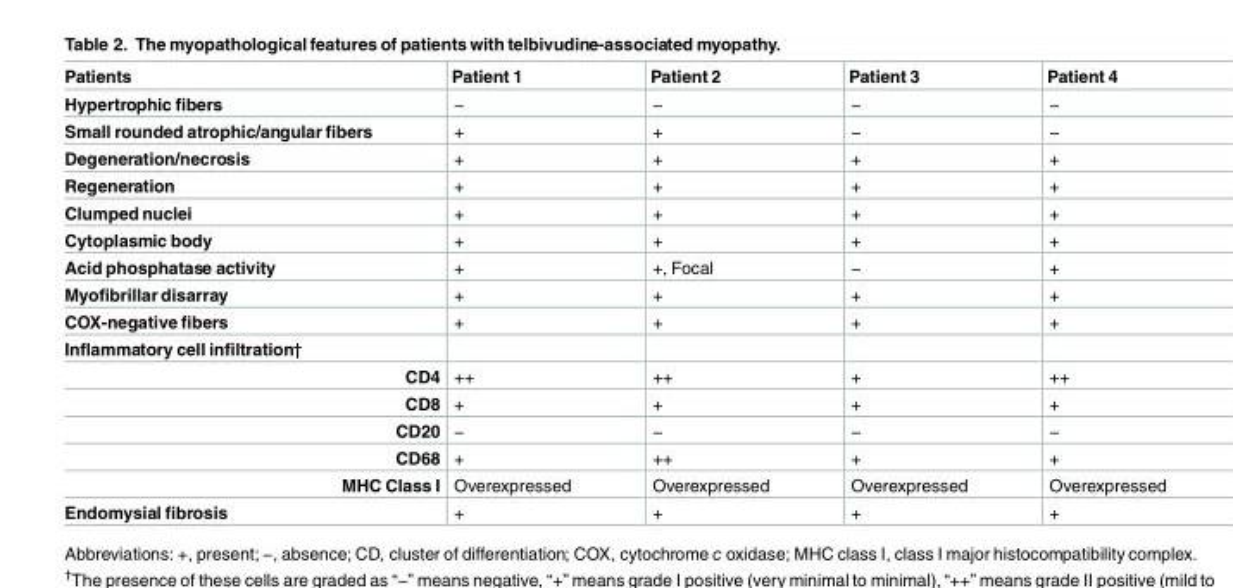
<table><thead><tr><td>Patients</td><td>Patient 1</td><td>Patient 2</td><td>Patient 3</td><td>Patient 4</td></tr></thead><tbody><tr><td>Hypertrophic fibers</td><td>−</td><td>−</td><td>−</td><td>−</td></tr><tr><td>Small rounded atrophic/angular fibers</td><td>+</td><td>+</td><td>−</td><td>−</td></tr><tr><td>Degeneration/necrosis</td><td>+</td><td>+</td><td>+</td><td>+</td></tr><tr><td>Regeneration</td><td>+</td><td>+</td><td>+</td><td>+</td></tr><tr><td>Clumped nuclei</td><td>+</td><td>+</td><td>+</td><td>+</td></tr><tr><td>Cytoplasmic body</td><td>+</td><td>+</td><td>+</td><td>+</td></tr><tr><td>Acid phosphatase activity</td><td>+</td><td>+, Focal</td><td>−</td><td>+</td></tr><tr><td>Myofibrillar disarray</td><td>+</td><td>+</td><td>+</td><td>+</td></tr><tr><td>COX-negative fibers</td><td>+</td><td>+</td><td>+</td><td>+</td></tr><tr><td colspan="5">Inflammatory cell infiltration†</td></tr><tr><td>CD4</td><td>++</td><td>++</td><td>+</td><td>++</td></tr><tr><td>CD8</td><td>+</td><td>+</td><td>+</td><td>+</td></tr><tr><td>CD20</td><td>−</td><td>−</td><td>−</td><td>−</td></tr><tr><td>CD68</td><td>+</td><td>++</td><td>+</td><td>+</td></tr><tr><td>MHC Class I</td><td>Overexpressed</td><td>Overexpressed</td><td>Overexpressed</td><td>Overexpressed</td></tr><tr><td>Endomysial fibrosis</td><td>+</td><td>+</td><td>+</td><td>+</td></tr></tbody></table>